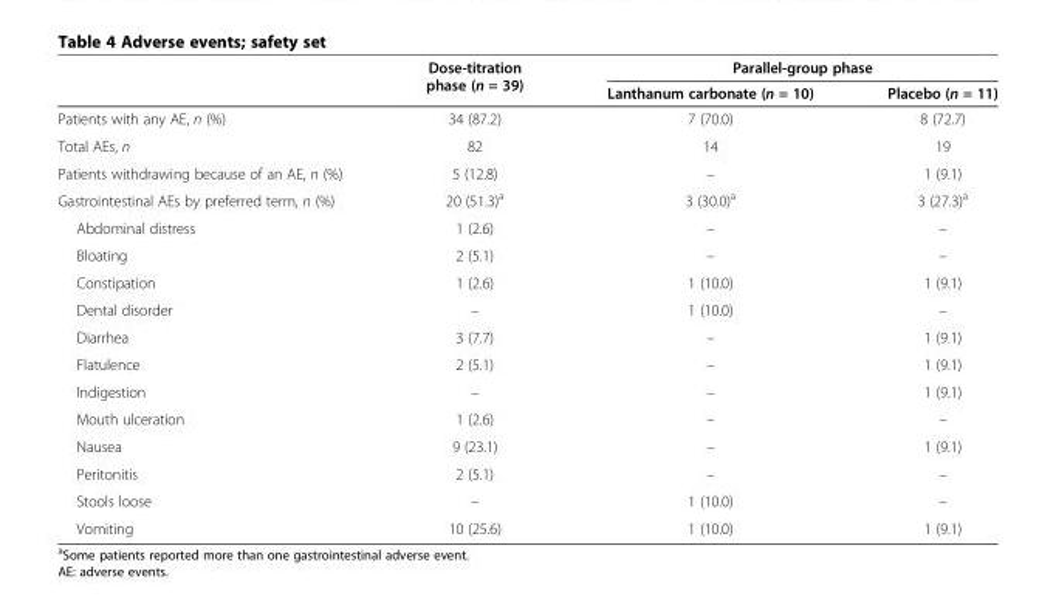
<table><thead><tr><td rowspan="2"></td><td rowspan="2">Dose-titration phase (n = 39)</td><td colspan="2">Parallel-group phase</td></tr><tr><td>Lanthanum carbonate (n = 10)</td><td>Placebo (n = 11)</td></tr></thead><tbody><tr><td>Patients with any AE, n (%)</td><td>34 (87.2)</td><td>7 (70.0)</td><td>8 (72.7)</td></tr><tr><td>Total AEs, n</td><td>82</td><td>14</td><td>19</td></tr><tr><td>Patients withdrawing because of an AE, n (%)</td><td>5 (12.8)</td><td>–</td><td>1 (9.1)</td></tr><tr><td>Gastrointestinal AEs by preferred term, n (%)</td><td>20 (51.3)<sup>a</sup></td><td>3 (30.0)<sup>a</sup></td><td>3 (27.3)<sup>a</sup></td></tr><tr><td>Abdominal distress</td><td>1 (2.6)</td><td>–</td><td>–</td></tr><tr><td>Bloating</td><td>2 (5.1)</td><td>–</td><td>–</td></tr><tr><td>Constipation</td><td>1 (2.6)</td><td>1 (10.0)</td><td>1 (9.1)</td></tr><tr><td>Dental disorder</td><td>–</td><td>1 (10.0)</td><td>–</td></tr><tr><td>Diarrhea</td><td>3 (7.7)</td><td>–</td><td>1 (9.1)</td></tr><tr><td>Flatulence</td><td>2 (5.1)</td><td>–</td><td>1 (9.1)</td></tr><tr><td>Indigestion</td><td>–</td><td>–</td><td>1 (9.1)</td></tr><tr><td>Mouth ulceration</td><td>1 (2.6)</td><td>–</td><td>–</td></tr><tr><td>Nausea</td><td>9 (23.1)</td><td>–</td><td>1 (9.1)</td></tr><tr><td>Peritonitis</td><td>2 (5.1)</td><td>–</td><td>–</td></tr><tr><td>Stools loose</td><td>–</td><td>1 (10.0)</td><td>–</td></tr><tr><td>Vomiting</td><td>10 (25.6)</td><td>1 (10.0)</td><td>1 (9.1)</td></tr></tbody></table>